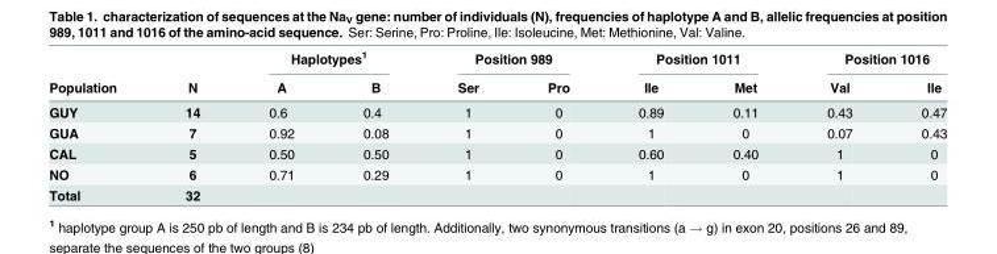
<table><thead><tr><td rowspan="2">Population</td><td rowspan="2">N</td><td colspan="2">Haplotypes<sup>1</sup></td><td colspan="2">Position 989</td><td colspan="2">Position 1011</td><td colspan="2">Position 1016</td></tr><tr><td>A</td><td>B</td><td>Ser</td><td>Pro</td><td>Ile</td><td>Met</td><td>Val</td><td>Ile</td></tr></thead><tbody><tr><td>GUY</td><td>14</td><td>0.6</td><td>0.4</td><td>1</td><td>0</td><td>0.89</td><td>0.11</td><td>0.43</td><td>0.47</td></tr><tr><td>GUA</td><td>7</td><td>0.92</td><td>0.08</td><td>1</td><td>0</td><td>1</td><td>0</td><td>0.07</td><td>0.43</td></tr><tr><td>CAL</td><td>5</td><td>0.50</td><td>0.50</td><td>1</td><td>0</td><td>0.60</td><td>0.40</td><td>1</td><td>0</td></tr><tr><td>NO</td><td>6</td><td>0.71</td><td>0.29</td><td>1</td><td>0</td><td>1</td><td>0</td><td>1</td><td>0</td></tr><tr><td>Total</td><td>32</td><td></td><td></td><td></td><td></td><td></td><td></td><td></td><td></td></tr></tbody></table>